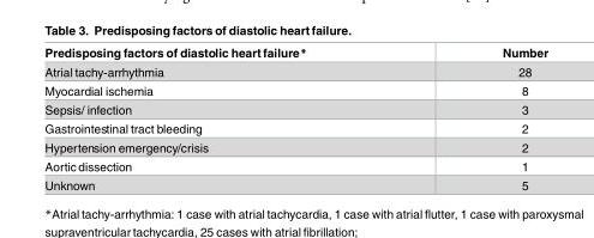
<table><thead><tr><td>Predisposing factors of diastolic heart failure*</td><td>Number</td></tr></thead><tbody><tr><td>Atrial tachy-arrhythmia</td><td>28</td></tr><tr><td>Myocardial ischemia</td><td>8</td></tr><tr><td>Sepsis/ infection</td><td>3</td></tr><tr><td>Gastrointestinal tract bleeding</td><td>2</td></tr><tr><td>Hypertension emergency/crisis</td><td>2</td></tr><tr><td>Aortic dissection</td><td>1</td></tr><tr><td>Unknown</td><td>5</td></tr></tbody></table>